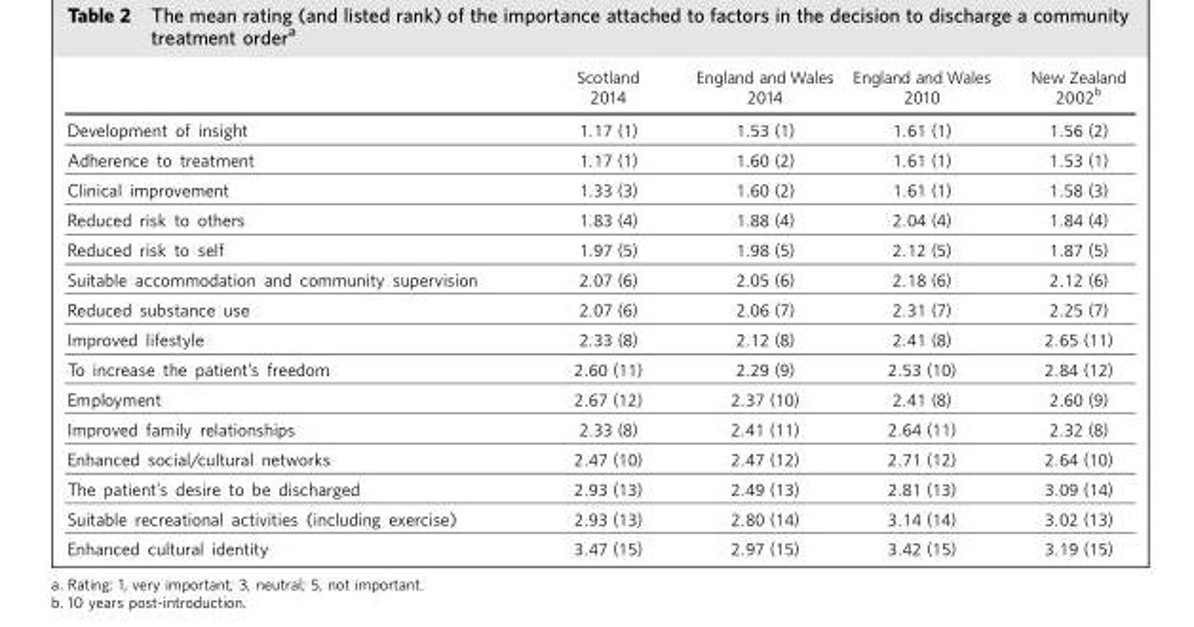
<table><thead><tr><td></td><td>Scotland 2014</td><td>England and Wales 2014</td><td>England and Wales 2010</td><td>New Zealand 2002<sup>b</sup></td></tr></thead><tbody><tr><td>Development of insight</td><td>1.17 (1)</td><td>1.53 (1)</td><td>1.61 (1)</td><td>1.56 (2)</td></tr><tr><td>Adherence to treatment</td><td>1.17 (1)</td><td>1.60 (2)</td><td>1.61 (1)</td><td>1.53 (1)</td></tr><tr><td>Clinical improvement</td><td>1.33 (3)</td><td>1.60 (2)</td><td>1.61 (1)</td><td>1.58 (3)</td></tr><tr><td>Reduced risk to others</td><td>1.83 (4)</td><td>1.88 (4)</td><td>2.04 (4)</td><td>1.84 (4)</td></tr><tr><td>Reduced risk to self</td><td>1.97 (5)</td><td>1.98 (5)</td><td>2.12 (5)</td><td>1.87 (5)</td></tr><tr><td>Suitable accommodation and community supervision</td><td>2.07 (6)</td><td>2.05 (6)</td><td>2.18 (6)</td><td>2.12 (6)</td></tr><tr><td>Reduced substance use</td><td>2.07 (6)</td><td>2.06 (7)</td><td>2.31 (7)</td><td>2.25 (7)</td></tr><tr><td>Improved lifestyle</td><td>2.33 (8)</td><td>2.12 (8)</td><td>2.41 (8)</td><td>2.65 (11)</td></tr><tr><td>To increase the patient’s freedom</td><td>2.60 (11)</td><td>2.29 (9)</td><td>2.53 (10)</td><td>2.84 (12)</td></tr><tr><td>Employment</td><td>2.67 (12)</td><td>2.37 (10)</td><td>2.41 (8)</td><td>2.60 (9)</td></tr><tr><td>Improved family relationships</td><td>2.33 (8)</td><td>2.41 (11)</td><td>2.64 (11)</td><td>2.32 (8)</td></tr><tr><td>Enhanced social/cultural networks</td><td>2.47 (10)</td><td>2.47 (12)</td><td>2.71 (12)</td><td>2.64 (10)</td></tr><tr><td>The patient’s desire to be discharged</td><td>2.93 (13)</td><td>2.49 (13)</td><td>2.81 (13)</td><td>3.09 (14)</td></tr><tr><td>Suitable recreational activities (including exercise)</td><td>2.93 (13)</td><td>2.80 (14)</td><td>3.14 (14)</td><td>3.02 (13)</td></tr><tr><td>Enhanced cultural identity</td><td>3.47 (15)</td><td>2.97 (15)</td><td>3.42 (15)</td><td>3.19 (15)</td></tr></tbody></table>